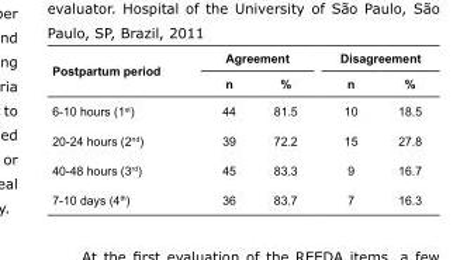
<table><thead><tr><td rowspan="2">Postpartum period</td><td colspan="2">Agreement</td><td colspan="2">Disagreement</td></tr><tr><td>n</td><td>%</td><td>n</td><td>%</td></tr></thead><tbody><tr><td>6-10 hours (1<sup>st</sup>)</td><td>44</td><td>81.5</td><td>10</td><td>18.5</td></tr><tr><td>20-24 hours (2<sup>nd</sup>)</td><td>39</td><td>72.2</td><td>15</td><td>27.8</td></tr><tr><td>40-48 hours (3<sup>rd</sup>)</td><td>45</td><td>83.3</td><td>9</td><td>16.7</td></tr><tr><td>7-10 days (4<sup>th</sup>)</td><td>36</td><td>83.7</td><td>7</td><td>16.3</td></tr></tbody></table>